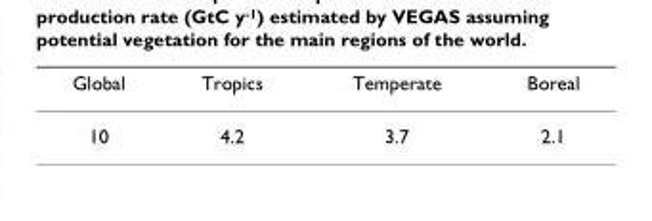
<table><thead><tr><td>Global</td><td>Tropics</td><td>Temperate</td><td>Boreal</td></tr></thead><tbody><tr><td>10</td><td>4.2</td><td>3.7</td><td>2.1</td></tr></tbody></table>